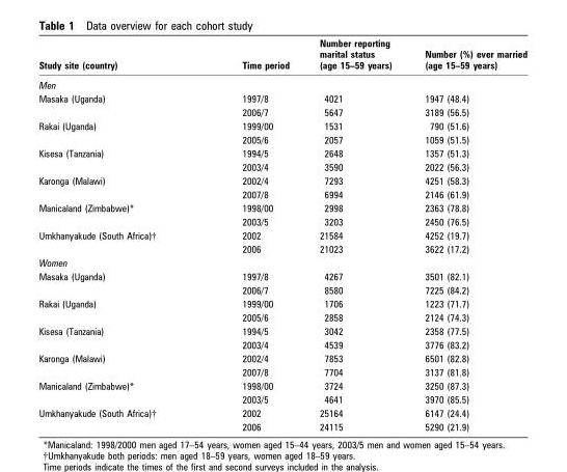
<table><thead><tr><td>Study site (country)</td><td>Time period</td><td>Number reporting marital status (age 15–59 years)</td><td>Number (%) ever married (age 15–59 years)</td></tr></thead><tbody><tr><td colspan="4">Men</td></tr><tr><td rowspan="2">Masaka (Uganda)</td><td>1997/8</td><td>4021</td><td>1947 (48.4)</td></tr><tr><td>2006/7</td><td>5647</td><td>3189 (56.5)</td></tr><tr><td rowspan="2">Rakai (Uganda)</td><td>1999/00</td><td>1531</td><td>790 (51.6)</td></tr><tr><td>2005/6</td><td>2057</td><td>1059 (51.5)</td></tr><tr><td rowspan="2">Kisesa (Tanzania)</td><td>1994/5</td><td>2648</td><td>1357 (51.3)</td></tr><tr><td>2003/4</td><td>3590</td><td>2022 (56.3)</td></tr><tr><td rowspan="2">Karonga (Malawi)</td><td>2002/4</td><td>7293</td><td>4251 (58.3)</td></tr><tr><td>2007/8</td><td>6994</td><td>2146 (61.9)</td></tr><tr><td rowspan="2">Manicaland (Zimbabwe)*</td><td>1998/00</td><td>2998</td><td>2363 (78.8)</td></tr><tr><td>2003/5</td><td>3203</td><td>2450 (76.5)</td></tr><tr><td rowspan="2">Umkhanyakude (South Africa)†</td><td>2002</td><td>21584</td><td>4252 (19.7)</td></tr><tr><td>2006</td><td>21023</td><td>3622 (17.2)</td></tr><tr><td colspan="4">Women</td></tr><tr><td rowspan="2">Masaka (Uganda)</td><td>1997/8</td><td>4267</td><td>3501 (82.1)</td></tr><tr><td>2006/7</td><td>8580</td><td>7225 (84.2)</td></tr><tr><td rowspan="2">Rakai (Uganda)</td><td>1999/00</td><td>1706</td><td>1223 (71.7)</td></tr><tr><td>2005/6</td><td>2858</td><td>2124 (74.3)</td></tr><tr><td rowspan="2">Kisesa (Tanzania)</td><td>1994/5</td><td>3042</td><td>2358 (77.5)</td></tr><tr><td>2003/4</td><td>4539</td><td>3776 (83.2)</td></tr><tr><td rowspan="2">Karonga (Malawi)</td><td>2002/4</td><td>7853</td><td>6501 (82.8)</td></tr><tr><td>2007/8</td><td>7704</td><td>3137 (81.8)</td></tr><tr><td rowspan="2">Manicaland (Zimbabwe)*</td><td>1998/00</td><td>3724</td><td>3250 (87.3)</td></tr><tr><td>2003/5</td><td>4641</td><td>3970 (85.5)</td></tr><tr><td rowspan="2">Umkhanyakude (South Africa)†</td><td>2002</td><td>25164</td><td>6147 (24.4)</td></tr><tr><td>2006</td><td>24115</td><td>5290 (21.9)</td></tr></tbody></table>